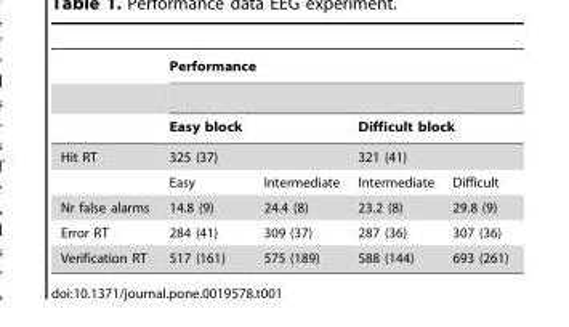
<table><thead><tr><td rowspan="4">Hit RT</td><td colspan="4">Performance</td></tr><tr><td rowspan="2" colspan="2">Easy block 325 (37)</td><td rowspan="2" colspan="2">Difficult block 321 (41)</td></tr><tr></tr><tr><td>Easy</td><td>Intermediate</td><td>Intermediate</td><td>Difficult</td></tr></thead><tbody><tr><td>Nr false alarms</td><td>14.8 (9)</td><td>24.4 (8)</td><td>23.2 (8)</td><td>29.8 (9)</td></tr><tr><td>Error RT</td><td>284 (41)</td><td>309 (37)</td><td>287 (36)</td><td>307 (36)</td></tr><tr><td>Verification RT</td><td>517 (161)</td><td>575 (189)</td><td>588 (144)</td><td>693 (261)</td></tr></tbody></table>